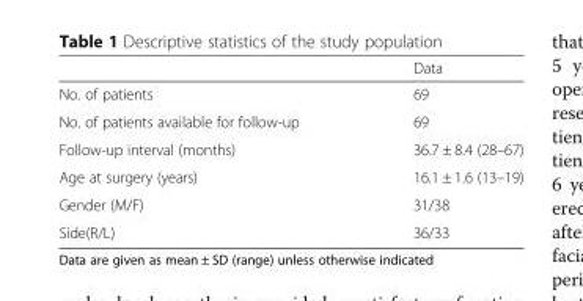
<table><thead><tr><td></td><td>Data</td></tr></thead><tbody><tr><td>No. of patients</td><td>69</td></tr><tr><td>No. of patients available for follow-up</td><td>69</td></tr><tr><td>Follow-up interval (months)</td><td>36.7 ± 8.4 (28–67)</td></tr><tr><td>Age at surgery (years)</td><td>16.1 ± 1.6 (13–19)</td></tr><tr><td>Gender (M/F)</td><td>31/38</td></tr><tr><td>Side(R/L)</td><td>36/33</td></tr></tbody></table>